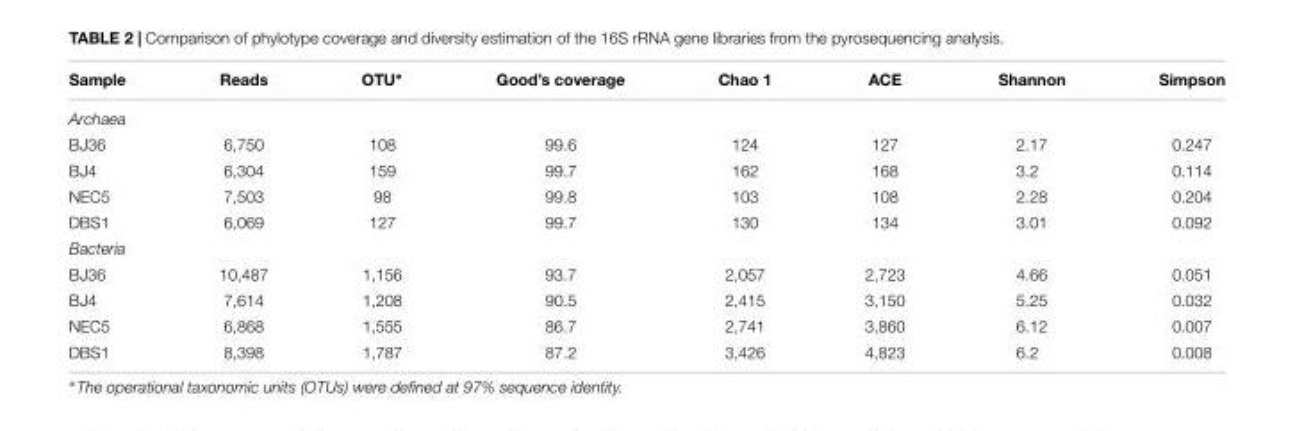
<table><thead><tr><td>Sample</td><td>Reads</td><td>OTU∗</td><td>Good’s coverage</td><td>Chao 1</td><td>ACE</td><td>Shannon</td><td>Simpson</td></tr></thead><tbody><tr><td colspan="8">Archaea</td></tr><tr><td>BJ36</td><td>6,750</td><td>108</td><td>99.6</td><td>124</td><td>127</td><td>2.17</td><td>0.247</td></tr><tr><td>BJ4</td><td>6,304</td><td>159</td><td>99.7</td><td>162</td><td>168</td><td>3.2</td><td>0.114</td></tr><tr><td>NEC5</td><td>7,503</td><td>98</td><td>99.8</td><td>103</td><td>108</td><td>2.28</td><td>0.204</td></tr><tr><td>DBS1</td><td>6,069</td><td>127</td><td>99.7</td><td>130</td><td>134</td><td>3.01</td><td>0.092</td></tr><tr><td colspan="8">Bacteria</td></tr><tr><td>BJ36</td><td>10,487</td><td>1,156</td><td>93.7</td><td>2,057</td><td>2,723</td><td>4.66</td><td>0.051</td></tr><tr><td>BJ4</td><td>7,614</td><td>1,208</td><td>90.5</td><td>2,415</td><td>3,150</td><td>5.25</td><td>0.032</td></tr><tr><td>NEC5</td><td>6,868</td><td>1,555</td><td>86.7</td><td>2,741</td><td>3,860</td><td>6.12</td><td>0.007</td></tr><tr><td>DBS1</td><td>8,398</td><td>1,787</td><td>87.2</td><td>3,426</td><td>4,823</td><td>6.2</td><td>0.008</td></tr></tbody></table>